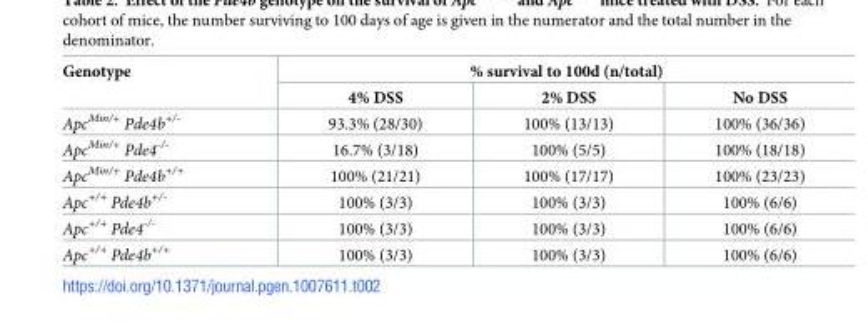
<table><thead><tr><td rowspan="2">Genotype</td><td colspan="3">% survival to 100d (n/total)</td></tr><tr><td>4% DSS</td><td>2% DSS</td><td>No DSS</td></tr></thead><tbody><tr><td>Apc<sup>Min/+</sup> Pde4b<sup>+/-</sup></td><td>93.3% (28/30)</td><td>100% (13/13)</td><td>100% (36/36)</td></tr><tr><td>Apc<sup>Min/+</sup> Pde4<sup>-/-</sup></td><td>16.7% (3/18)</td><td>100% (5/5)</td><td>100% (18/18)</td></tr><tr><td>Apc<sup>Min/+</sup> Pde4b<sup>+/+</sup></td><td>100% (21/21)</td><td>100% (17/17)</td><td>100% (23/23)</td></tr><tr><td>Apc<sup>+/+</sup> Pde4b<sup>+/-</sup></td><td>100% (3/3)</td><td>100% (3/3)</td><td>100% (6/6)</td></tr><tr><td>Apc<sup>+/+</sup> Pde4<sup>-/-</sup></td><td>100% (3/3)</td><td>100% (3/3)</td><td>100% (6/6)</td></tr><tr><td>Apc<sup>+/+</sup> Pde4b<sup>+/+</sup></td><td>100% (3/3)</td><td>100% (3/3)</td><td>100% (6/6)</td></tr></tbody></table>